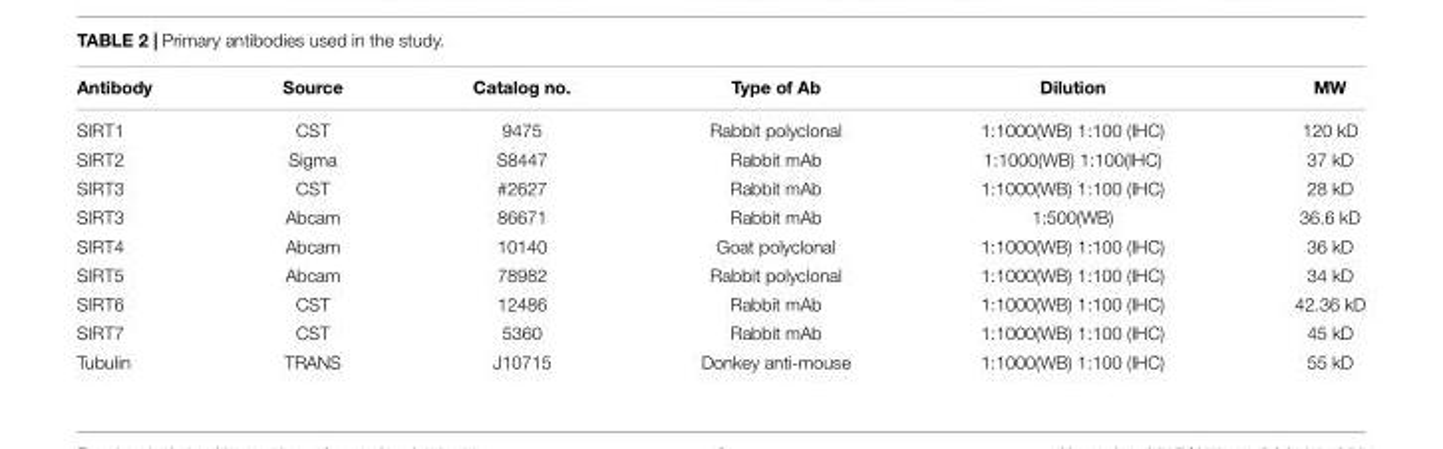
<table><thead><tr><td>Antibody</td><td>Source</td><td>Catalog no.</td><td>Type of Ab</td><td>Dilution</td><td>MW</td></tr></thead><tbody><tr><td>SIRT1</td><td>CST</td><td>9475</td><td>Rabbit polyclonal</td><td>1:1000(WB) 1:100 (IHC)</td><td>120 kD</td></tr><tr><td>SIRT2</td><td>Sigma</td><td>S8447</td><td>Rabbit mAb</td><td>1:1000(WB) 1:100(IHC)</td><td>37 kD</td></tr><tr><td>SIRT3</td><td>CST</td><td>#2627</td><td>Rabbit mAb</td><td>1:1000(WB) 1:100 (IHC)</td><td>28 kD</td></tr><tr><td>SIRT3</td><td>Abcam</td><td>86671</td><td>Rabbit mAb</td><td>1:500(WB)</td><td>36.6 kD</td></tr><tr><td>SIRT4</td><td>Abcam</td><td>10140</td><td>Goat polyclonal</td><td>1:1000(WB) 1:100 (IHC)</td><td>36 kD</td></tr><tr><td>SIRT5</td><td>Abcam</td><td>78982</td><td>Rabbit polyclonal</td><td>1:1000(WB) 1:100 (IHC)</td><td>34 kD</td></tr><tr><td>SIRT6</td><td>CST</td><td>12486</td><td>Rabbit mAb</td><td>1:1000(WB) 1:100 (IHC)</td><td>42.36 kD</td></tr><tr><td>SIRT7</td><td>CST</td><td>5360</td><td>Rabbit mAb</td><td>1:1000(WB) 1:100 (IHC)</td><td>45 kD</td></tr><tr><td>Tubulin</td><td>TRANS</td><td>J10715</td><td>Donkey anti-mouse</td><td>1:1000(WB) 1:100 (IHC)</td><td>55 kD</td></tr></tbody></table>